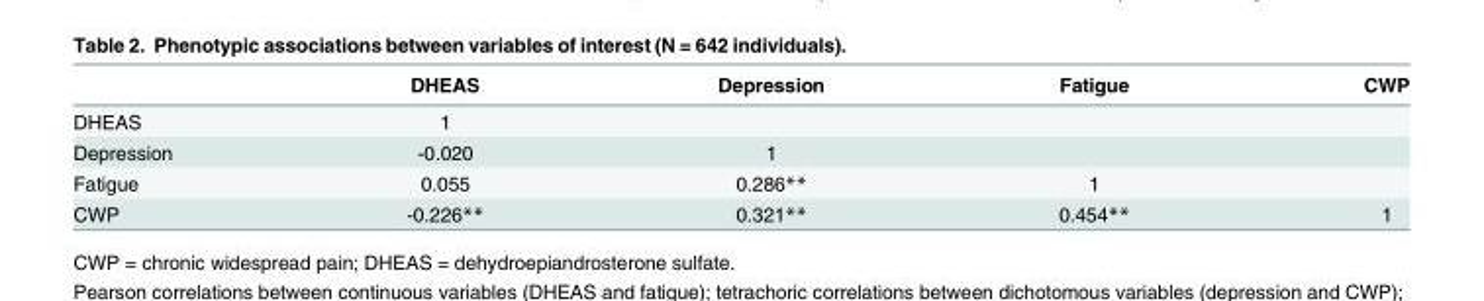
<table><thead><tr><td></td><td>DHEAS</td><td>Depression</td><td>Fatigue</td><td>CWP</td></tr></thead><tbody><tr><td>DHEAS</td><td>1</td><td></td><td></td><td></td></tr><tr><td>Depression</td><td>-0.020</td><td>1</td><td></td><td></td></tr><tr><td>Fatigue</td><td>0.055</td><td>0.286**</td><td>1</td><td></td></tr><tr><td>CWP</td><td>-0.226**</td><td>0.321**</td><td>0.454**</td><td>1</td></tr></tbody></table>